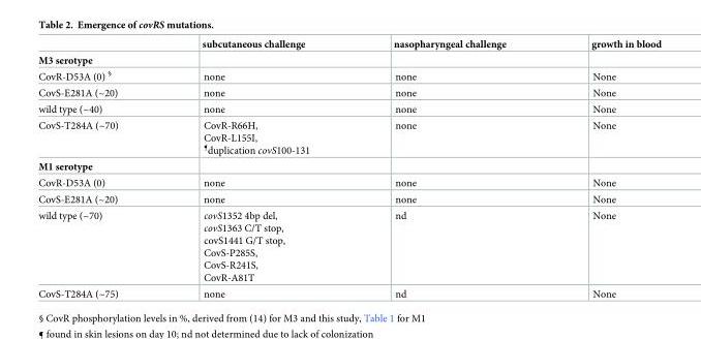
<table><thead><tr><td></td><td>subcutaneous challenge</td><td>nasopharyngeal challenge</td><td>growth in blood</td></tr></thead><tbody><tr><td colspan="4">M3 serotype</td></tr><tr><td>CovR-D53A (0) <sup>§</sup></td><td>none</td><td>none</td><td>None</td></tr><tr><td>CovS-E281A (~20)</td><td>none</td><td>none</td><td>None</td></tr><tr><td>wild type (~40)</td><td>none</td><td>none</td><td>None</td></tr><tr><td>CovS-T284A (~70)</td><td>CovR-R66H, CovR-L155I, <sup>¶</sup>duplication covS100-131</td><td>none</td><td>None</td></tr><tr><td colspan="4">M1 serotype</td></tr><tr><td>CovR-D53A (0)</td><td>none</td><td>none</td><td>None</td></tr><tr><td>CovS-E281A (~20)</td><td>none</td><td>none</td><td>None</td></tr><tr><td>wild type (~70)</td><td>covS1352 4bp del, covS1363 C/T stop, covS1441 G/T stop, CovS-P285S, CovS-R241S, CovR-A81T</td><td>nd</td><td>None</td></tr><tr><td>CovS-T284A (~75)</td><td>none</td><td>nd</td><td>None</td></tr></tbody></table>